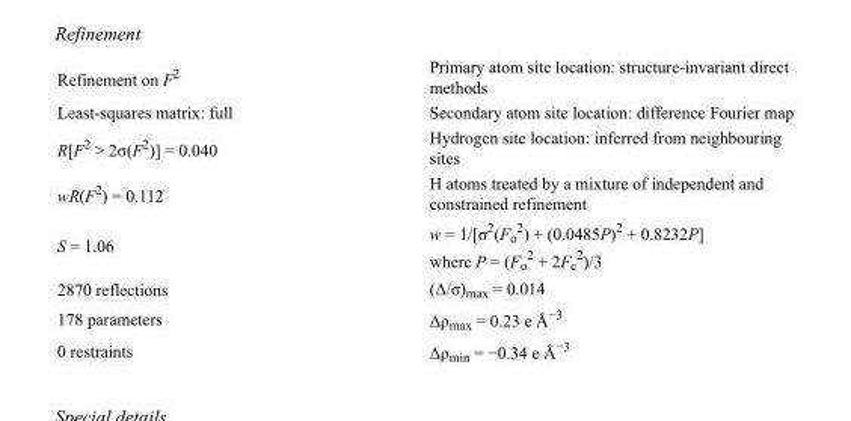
<table><tbody><tr><td>Refinement on F<sup>2</sup></td><td>Primary atom site location: structure-invariant direct methods</td></tr><tr><td>Least-squares matrix: full</td><td>Secondary atom site location: difference Fourier map</td></tr><tr><td>R[F<sup>2</sup> &gt; 2σ(F<sup>2</sup>)] = 0.040</td><td>Hydrogen site location: inferred from neighbouring sites</td></tr><tr><td>wR(F<sup>2</sup>) = 0.112</td><td>H atoms treated by a mixture of independent and constrained refinement</td></tr><tr><td>S = 1.06</td><td>w = 1/[σ<sup>2</sup>(F<sub>o</sub> <sup>2</sup>) + (0.0485P)<sup>2</sup> + 0.8232P] where P = (F<sub>o</sub> <sup>2</sup> + 2F<sub>c</sub> <sup>2</sup>)/3</td></tr><tr><td>2870 reflections</td><td>(Δ/σ)<sub>max</sub> = 0.014</td></tr><tr><td>178 parameters</td><td>Δρ<sub>max</sub> = 0.23 e Å<sup>−3</sup></td></tr><tr><td>0 restraints</td><td>Δρ<sub>min</sub> = −0.34 e Å<sup>−3</sup></td></tr></tbody></table>